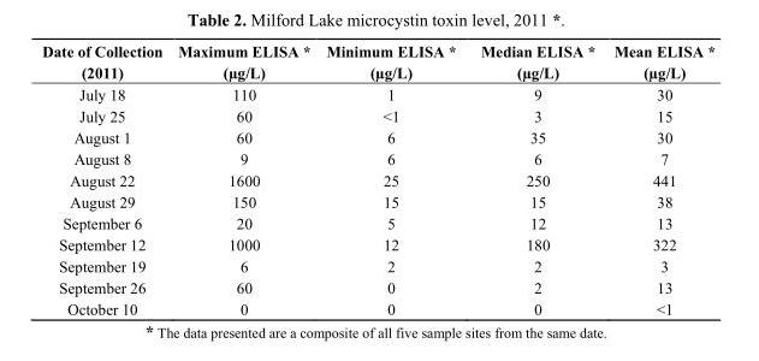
<table><thead><tr><td>Date of Collection (2011)</td><td>Maximum ELISA * (µg/L)</td><td>Minimum ELISA * (µg/L)</td><td>Median ELISA * (µg/L)</td><td>Mean ELISA * (µg/L)</td></tr></thead><tbody><tr><td>July 18</td><td>110</td><td>1</td><td>9</td><td>30</td></tr><tr><td>July 25</td><td>60</td><td>&lt;1</td><td>3</td><td>15</td></tr><tr><td>August 1</td><td>60</td><td>6</td><td>35</td><td>30</td></tr><tr><td>August 8</td><td>9</td><td>6</td><td>6</td><td>7</td></tr><tr><td>August 22</td><td>1600</td><td>25</td><td>250</td><td>441</td></tr><tr><td>August 29</td><td>150</td><td>15</td><td>15</td><td>38</td></tr><tr><td>September 6</td><td>20</td><td>5</td><td>12</td><td>13</td></tr><tr><td>September 12</td><td>1000</td><td>12</td><td>180</td><td>322</td></tr><tr><td>September 19</td><td>6</td><td>2</td><td>2</td><td>3</td></tr><tr><td>September 26</td><td>60</td><td>0</td><td>2</td><td>13</td></tr><tr><td>October 10</td><td>0</td><td>0</td><td>0</td><td>&lt;1</td></tr></tbody></table>